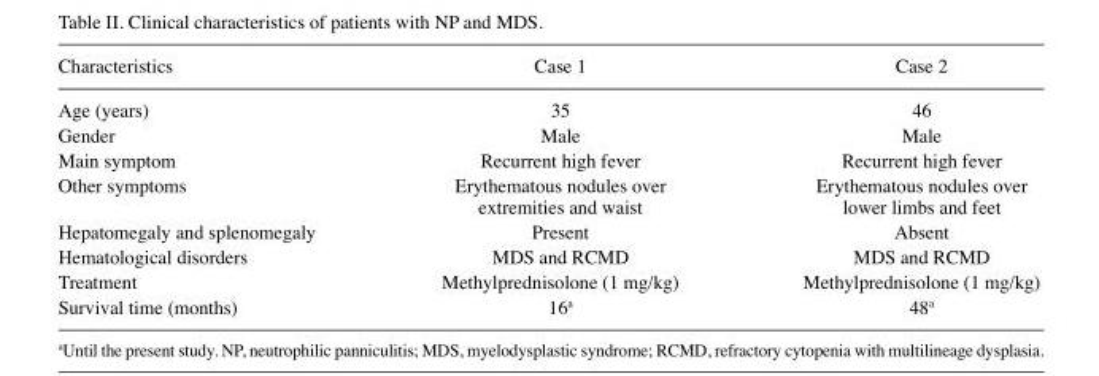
<table><thead><tr><td>Characteristics</td><td>Case 1</td><td>Case 2</td></tr></thead><tbody><tr><td>Age (years)</td><td>35</td><td>46</td></tr><tr><td>Gender</td><td>Male</td><td>Male</td></tr><tr><td>Main symptom</td><td>Recurrent high fever</td><td>Recurrent high fever</td></tr><tr><td>Other symptoms</td><td>Erythematous nodules over extremities and waist</td><td>Erythematous nodules over lower limbs and feet</td></tr><tr><td>Hepatomegaly and splenomegaly</td><td>Present</td><td>Absent</td></tr><tr><td>Hematological disorders</td><td>MDS and RCMD</td><td>MDS and RCMD</td></tr><tr><td>Treatment</td><td>Methylprednisolone (1 mg/kg)</td><td>Methylprednisolone (1 mg/kg)</td></tr><tr><td>Survival time (months)</td><td>16<sup>a</sup></td><td>48<sup>a</sup></td></tr></tbody></table>